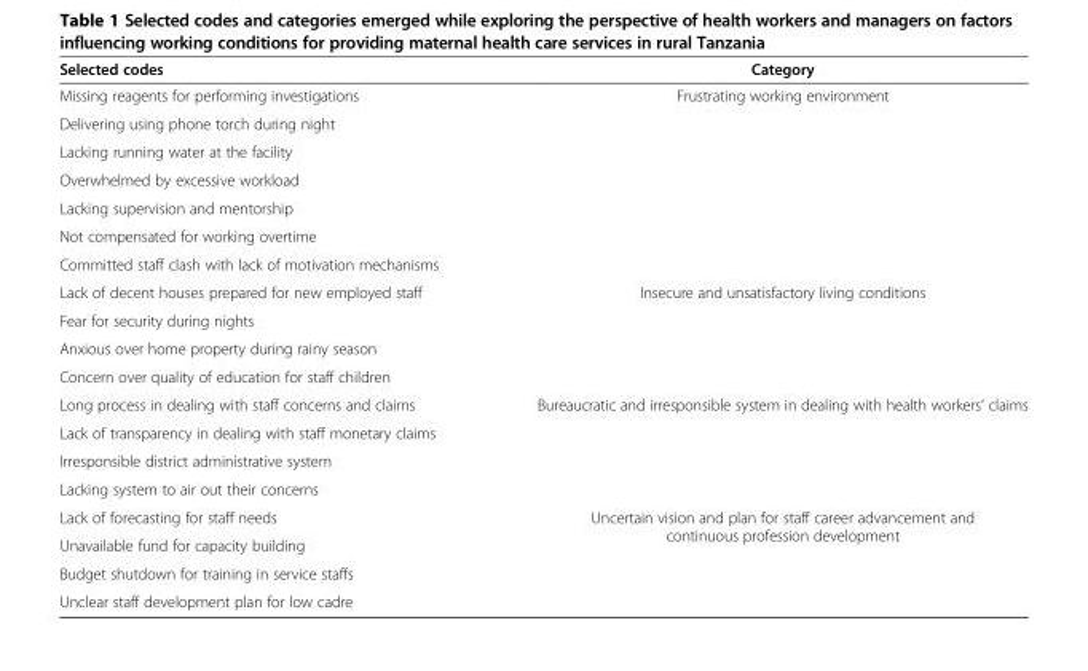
<table><thead><tr><td>Selected codes</td><td>Category</td></tr></thead><tbody><tr><td>Missing reagents for performing investigations</td><td rowspan="7">Frustrating working environment</td></tr><tr><td>Delivering using phone torch during night</td></tr><tr><td>Lacking running water at the facility</td></tr><tr><td>Overwhelmed by excessive workload</td></tr><tr><td>Lacking supervision and mentorship</td></tr><tr><td>Not compensated for working overtime</td></tr><tr><td>Committed staff clash with lack of motivation mechanisms</td></tr><tr><td>Lack of decent houses prepared for new employed staff</td><td rowspan="4">Insecure and unsatisfactory living conditions</td></tr><tr><td>Fear for security during nights</td></tr><tr><td>Anxious over home property during rainy season</td></tr><tr><td>Concern over quality of education for staff children</td></tr><tr><td>Long process in dealing with staff concerns and claims</td><td rowspan="4">Bureaucratic and irresponsible system in dealing with health workers’ claims</td></tr><tr><td>Lack of transparency in dealing with staff monetary claims</td></tr><tr><td>Irresponsible district administrative system</td></tr><tr><td>Lacking system to air out their concerns</td></tr><tr><td>Lack of forecasting for staff needs</td><td rowspan="4">Uncertain vision and plan for staff career advancement and continuous profession development</td></tr><tr><td>Unavailable fund for capacity building</td></tr><tr><td>Budget shutdown for training in service staffs</td></tr><tr><td>Unclear staff development plan for low cadre</td></tr></tbody></table>